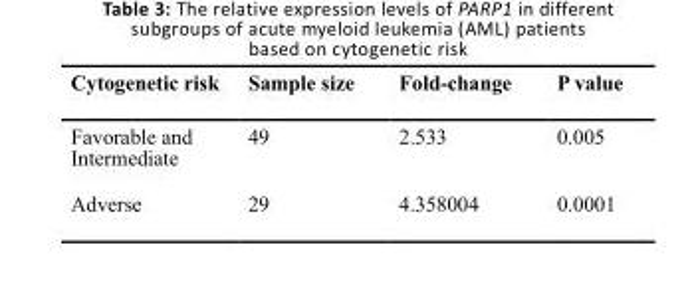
<table><thead><tr><td>Cytogenetic risk</td><td>Sample size</td><td>Fold-change</td><td>P value</td></tr></thead><tbody><tr><td>Favorable and Intermediate</td><td>49</td><td>2.533</td><td>0.005</td></tr><tr><td>Adverse</td><td>29</td><td>4.358004</td><td>0.0001</td></tr></tbody></table>